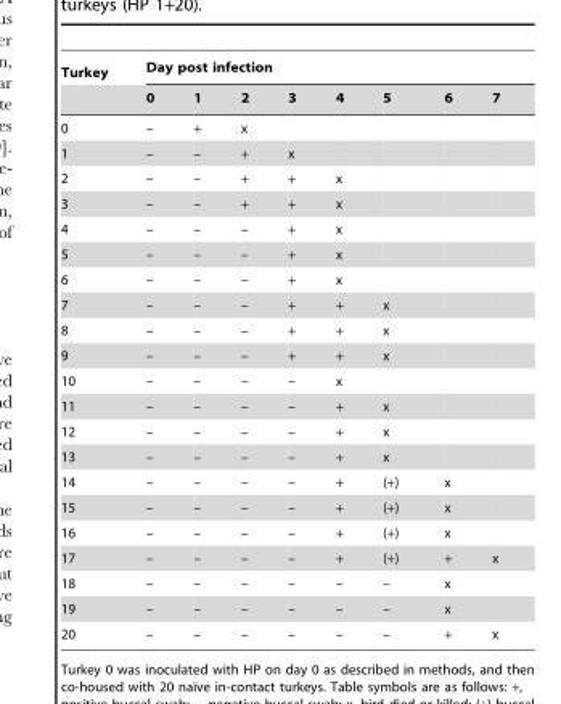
<table><thead><tr><td rowspan="2">Turkey</td><td colspan="8">Day post infection</td></tr><tr><td>0</td><td>1</td><td>2</td><td>3</td><td>4</td><td>5</td><td>6</td><td>7</td></tr></thead><tbody><tr><td>0</td><td>–</td><td>+</td><td>x</td><td></td><td></td><td></td><td></td><td></td></tr><tr><td>1</td><td>–</td><td>–</td><td>+</td><td>x</td><td></td><td></td><td></td><td></td></tr><tr><td>2</td><td>–</td><td>–</td><td>+</td><td>+</td><td>x</td><td></td><td></td><td></td></tr><tr><td>3</td><td>–</td><td>–</td><td>+</td><td>+</td><td>x</td><td></td><td></td><td></td></tr><tr><td>4</td><td>–</td><td>–</td><td>–</td><td>+</td><td>x</td><td></td><td></td><td></td></tr><tr><td>5</td><td>–</td><td>–</td><td>–</td><td>+</td><td>x</td><td></td><td></td><td></td></tr><tr><td>6</td><td>–</td><td>–</td><td>–</td><td>+</td><td>x</td><td></td><td></td><td></td></tr><tr><td>7</td><td>–</td><td>–</td><td>–</td><td>+</td><td>+</td><td>x</td><td></td><td></td></tr><tr><td>8</td><td>–</td><td>–</td><td>–</td><td>+</td><td>+</td><td>x</td><td></td><td></td></tr><tr><td>9</td><td>–</td><td>–</td><td>–</td><td>+</td><td>+</td><td>x</td><td></td><td></td></tr><tr><td>10</td><td>–</td><td>–</td><td>–</td><td>–</td><td>x</td><td></td><td></td><td></td></tr><tr><td>11</td><td>–</td><td>–</td><td>–</td><td>–</td><td>+</td><td>x</td><td></td><td></td></tr><tr><td>12</td><td>–</td><td>–</td><td>–</td><td>–</td><td>+</td><td>x</td><td></td><td></td></tr><tr><td>13</td><td>–</td><td>–</td><td>–</td><td>–</td><td>+</td><td>x</td><td></td><td></td></tr><tr><td>14</td><td>–</td><td>–</td><td>–</td><td>–</td><td>+</td><td>(+)</td><td>x</td><td></td></tr><tr><td>15</td><td>–</td><td>–</td><td>–</td><td>–</td><td>+</td><td>(+)</td><td>x</td><td></td></tr><tr><td>16</td><td>–</td><td>–</td><td>–</td><td>–</td><td>+</td><td>(+)</td><td>x</td><td></td></tr><tr><td>17</td><td>–</td><td>–</td><td>–</td><td>–</td><td>+</td><td>(+)</td><td>+</td><td>x</td></tr><tr><td>18</td><td>–</td><td>–</td><td>–</td><td>–</td><td>–</td><td>–</td><td>x</td><td></td></tr><tr><td>19</td><td>–</td><td>–</td><td>–</td><td>–</td><td>–</td><td>–</td><td>x</td><td></td></tr><tr><td>20</td><td>–</td><td>–</td><td>–</td><td>–</td><td>–</td><td>–</td><td>+</td><td>x</td></tr></tbody></table>